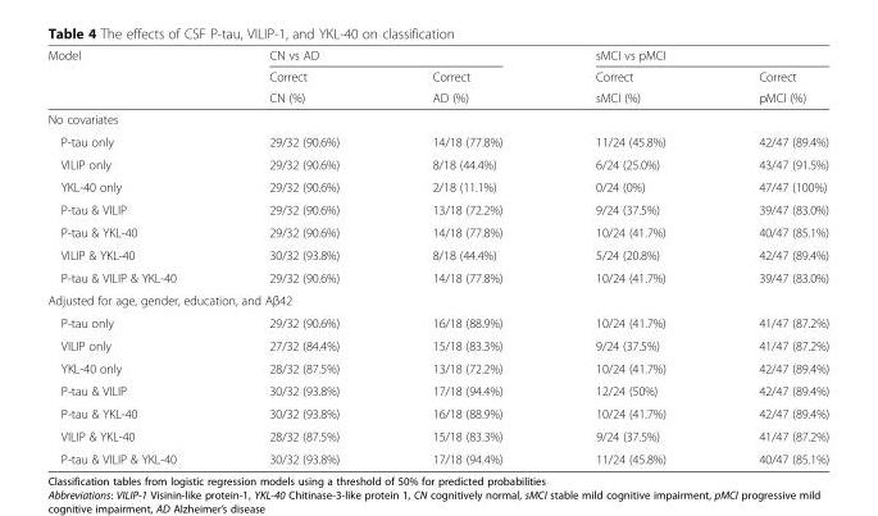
<table><thead><tr><td rowspan="3">Model</td><td colspan="2">CN vs AD</td><td colspan="2">sMCI vs pMCI</td></tr><tr><td rowspan="2">Correct CN (%)</td><td rowspan="2">Correct AD (%)</td><td rowspan="2">Correct sMCI (%)</td><td rowspan="2">Correct pMCI (%)</td></tr><tr></tr></thead><tbody><tr><td colspan="5">No covariates</td></tr><tr><td>P-tau only</td><td>29/32 (90.6%)</td><td>14/18 (77.8%)</td><td>11/24 (45.8%)</td><td>42/47 (89.4%)</td></tr><tr><td>VILIP only</td><td>29/32 (90.6%)</td><td>8/18 (44.4%)</td><td>6/24 (25.0%)</td><td>43/47 (91.5%)</td></tr><tr><td>YKL-40 only</td><td>29/32 (90.6%)</td><td>2/18 (11.1%)</td><td>0/24 (0%)</td><td>47/47 (100%)</td></tr><tr><td>P-tau &amp; VILIP</td><td>29/32 (90.6%)</td><td>13/18 (72.2%)</td><td>9/24 (37.5%)</td><td>39/47 (83.0%)</td></tr><tr><td>P-tau &amp; YKL-40</td><td>29/32 (90.6%)</td><td>14/18 (77.8%)</td><td>10/24 (41.7%)</td><td>40/47 (85.1%)</td></tr><tr><td>VILIP &amp; YKL-40</td><td>30/32 (93.8%)</td><td>8/18 (44.4%)</td><td>5/24 (20.8%)</td><td>42/47 (89.4%)</td></tr><tr><td>P-tau &amp; VILIP &amp; YKL-40</td><td>29/32 (90.6%)</td><td>14/18 (77.8%)</td><td>10/24 (41.7%)</td><td>39/47 (83.0%)</td></tr><tr><td colspan="5">Adjusted for age, gender, education, and Aβ42</td></tr><tr><td>P-tau only</td><td>29/32 (90.6%)</td><td>16/18 (88.9%)</td><td>10/24 (41.7%)</td><td>41/47 (87.2%)</td></tr><tr><td>VILIP only</td><td>27/32 (84.4%)</td><td>15/18 (83.3%)</td><td>9/24 (37.5%)</td><td>41/47 (87.2%)</td></tr><tr><td>YKL-40 only</td><td>28/32 (87.5%)</td><td>13/18 (72.2%)</td><td>10/24 (41.7%)</td><td>42/47 (89.4%)</td></tr><tr><td>P-tau &amp; VILIP</td><td>30/32 (93.8%)</td><td>17/18 (94.4%)</td><td>12/24 (50%)</td><td>42/47 (89.4%)</td></tr><tr><td>P-tau &amp; YKL-40</td><td>30/32 (93.8%)</td><td>16/18 (88.9%)</td><td>10/24 (41.7%)</td><td>42/47 (89.4%)</td></tr><tr><td>VILIP &amp; YKL-40</td><td>28/32 (87.5%)</td><td>15/18 (83.3%)</td><td>9/24 (37.5%)</td><td>41/47 (87.2%)</td></tr><tr><td>P-tau &amp; VILIP &amp; YKL-40</td><td>30/32 (93.8%)</td><td>17/18 (94.4%)</td><td>11/24 (45.8%)</td><td>40/47 (85.1%)</td></tr></tbody></table>